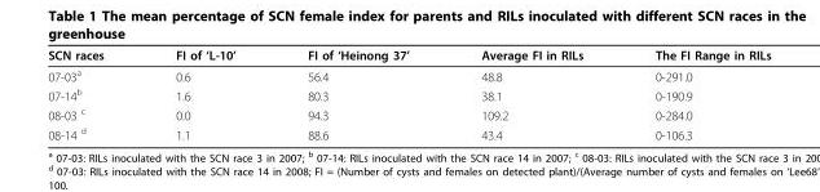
<table><thead><tr><td>SCN races</td><td>FI of ‘L-10’</td><td>FI of ‘Heinong 37’</td><td>Average FI in RILs</td><td>The FI Range in RILs</td></tr></thead><tbody><tr><td>07-03<sup>a</sup></td><td>0.6</td><td>56.4</td><td>48.8</td><td>0-291.0</td></tr><tr><td>07-14<sup>b</sup></td><td>1.6</td><td>80.3</td><td>38.1</td><td>0-190.9</td></tr><tr><td>08-03 <sup>c</sup></td><td>0.0</td><td>94.3</td><td>109.2</td><td>0-284.0</td></tr><tr><td>08-14 <sup>d</sup></td><td>1.1</td><td>88.6</td><td>43.4</td><td>0-106.3</td></tr></tbody></table>